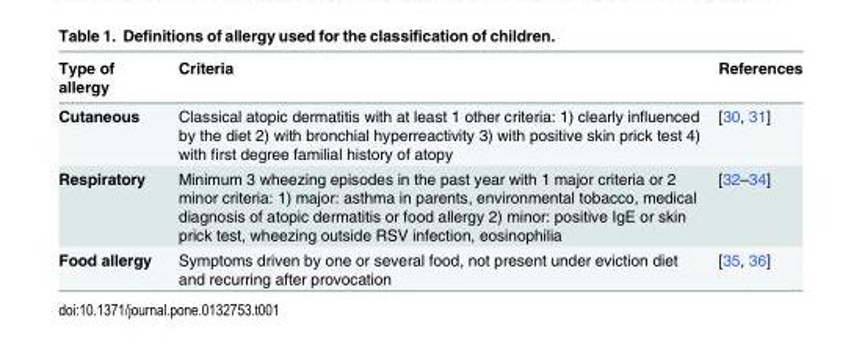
<table><thead><tr><td>Type of allergy</td><td>Criteria</td><td>References</td></tr></thead><tbody><tr><td>Cutaneous</td><td>Classical atopic dermatitis with at least 1 other criteria: 1) clearly influenced by the diet 2) with bronchial hyperreactivity 3) with positive skin prick test 4) with first degree familial history of atopy</td><td>[30, 31]</td></tr><tr><td>Respiratory</td><td>Minimum 3 wheezing episodes in the past year with 1 major criteria or 2 minor criteria: 1) major: asthma in parents, environmental tobacco, medical diagnosis of atopic dermatitis or food allergy 2) minor: positive IgE or skin prick test, wheezing outside RSV infection, eosinophilia</td><td>[32–34]</td></tr><tr><td>Food allergy</td><td>Symptoms driven by one or several food, not present under eviction diet and recurring after provocation</td><td>[35, 36]</td></tr></tbody></table>